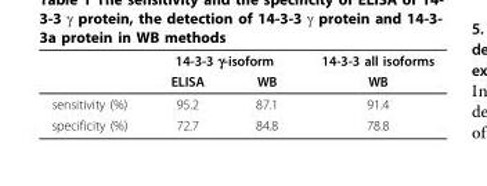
<table><thead><tr><td rowspan="2"></td><td colspan="2">14-3-3 γ-isoform</td><td rowspan="2">14-3-3 all isoforms WB</td></tr><tr><td>ELISA</td><td>WB</td></tr></thead><tbody><tr><td>sensitivity (%)</td><td>95.2</td><td>87.1</td><td>91.4</td></tr><tr><td>specificity (%)</td><td>72.7</td><td>84.8</td><td>78.8</td></tr></tbody></table>